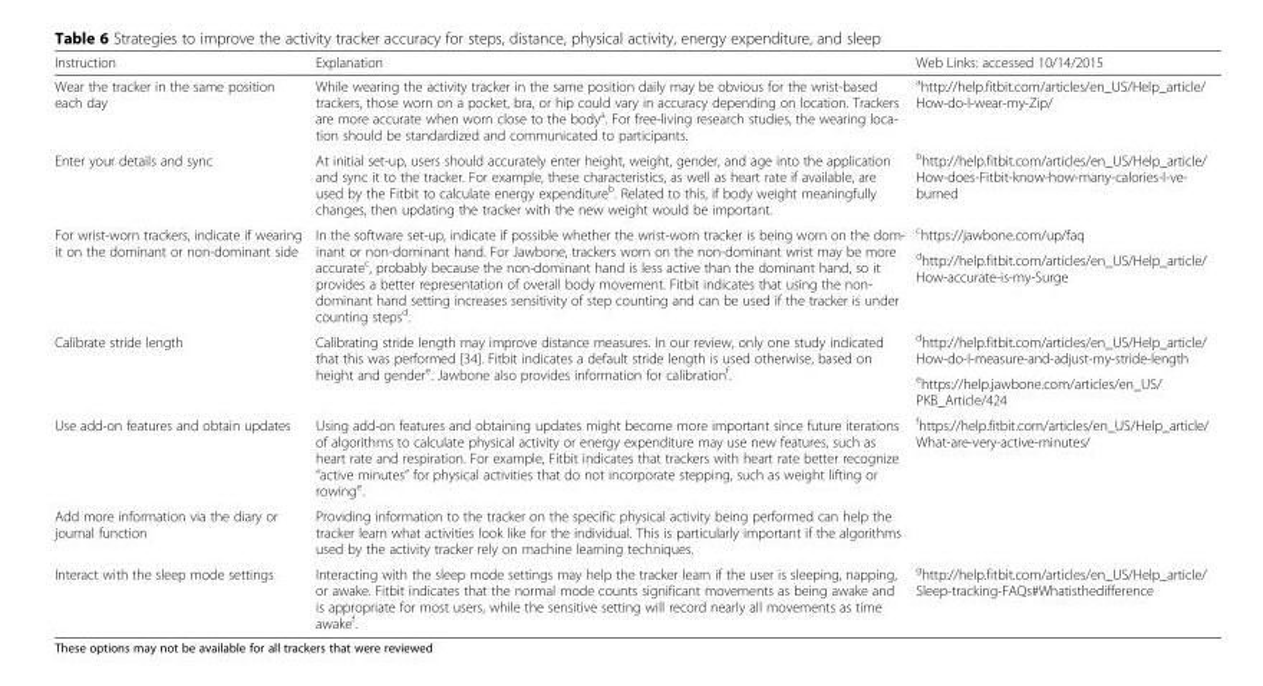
<table><thead><tr><td>Instruction</td><td>Explanation</td><td>Web Links: accessed 10/14/2015</td></tr></thead><tbody><tr><td>Wear the tracker in the same position each day</td><td>While wearing the activity tracker in the same position daily may be obvious for the wrist-based trackers, those worn on a pocket, bra, or hip could vary in accuracy depending on location. Trackers are more accurate when worn close to the bodya. For free-living research studies, the wearing loca- tion should be standardized and communicated to participants.</td><td><sup>a</sup>http://help.fitbit.com/articles/en_US/Help_article/ How-do-I-wear-my-Zip/</td></tr><tr><td>Enter your details and sync</td><td>At initial set-up, users should accurately enter height, weight, gender, and age into the application and sync it to the tracker. For example, these characteristics, as well as heart rate if available, are used by the Fitbit to calculate energy expenditure<sup>b</sup>. Related to this, if body weight meaningfully changes, then updating the tracker with the new weight would be important.</td><td><sup>b</sup>http://help.fitbit.com/articles/en_US/Help_article/ How-does-Fitbit-know-how-many-calories-I-ve- burned</td></tr><tr><td rowspan="2">For wrist-worn trackers, indicate if wearing it on the dominant or non-dominant side</td><td rowspan="2">In the software set-up, indicate if possible whether the wrist-worn tracker is being worn on the dom- inant or non-dominant hand. For Jawbone, trackers worn on the non-dominant wrist may be more accuratec, probably because the non-dominant hand is less active than the dominant hand, so it provides a better representation of overall body movement. Fitbit indicates that using the non- dominant hand setting increases sensitivity of step counting and can be used if the tracker is under counting stepsd.</td><td><sup>c</sup>https://jawbone.com/up/faq</td></tr><tr><td><sup>d</sup>http://help.fitbit.com/articles/en_US/Help_article/ How-accurate-is-my-Surge</td></tr><tr><td rowspan="2">Calibrate stride length</td><td rowspan="2">Calibrating stride length may improve distance measures. In our review, only one study indicated that this was performed [34]. Fitbit indicates a default stride length is used otherwise, based on height and gender<sup>e</sup>. Jawbone also provides information for calibration<sup>f</sup>.</td><td><sup>d</sup>http://help.fitbit.com/articles/en_US/Help_article/ How-do-I-measure-and-adjust-my-stride-length</td></tr><tr><td><sup>e</sup>https://help.jawbone.com/articles/en_US/ PKB_Article/424</td></tr><tr><td>Use add-on features and obtain updates</td><td>Using add-on features and obtaining updates might become more important since future iterations of algorithms to calculate physical activity or energy expenditure may use new features, such as heart rate and respiration. For example, Fitbit indicates that trackers with heart rate better recognize “active minutes” for physical activities that do not incorporate stepping, such as weight lifting or rowing<sup>e</sup>.</td><td><sup>f</sup>https://help.fitbit.com/articles/en_US/Help_article/ What-are-very-active-minutes/</td></tr><tr><td>Add more information via the diary or journal function</td><td>Providing information to the tracker on the specific physical activity being performed can help the tracker learn what activities look like for the individual. This is particularly important if the algorithms used by the activity tracker rely on machine learning techniques.</td><td></td></tr><tr><td>Interact with the sleep mode settings</td><td>Interacting with the sleep mode settings may help the tracker learn if the user is sleeping, napping, or awake. Fitbit indicates that the normal mode counts significant movements as being awake and is appropriate for most users, while the sensitive setting will record nearly all movements as time awake<sup>f</sup>.</td><td><sup>g</sup>http://help.fitbit.com/articles/en_US/Help_article/ Sleep-tracking-FAQs#Whatisthedifference</td></tr></tbody></table>